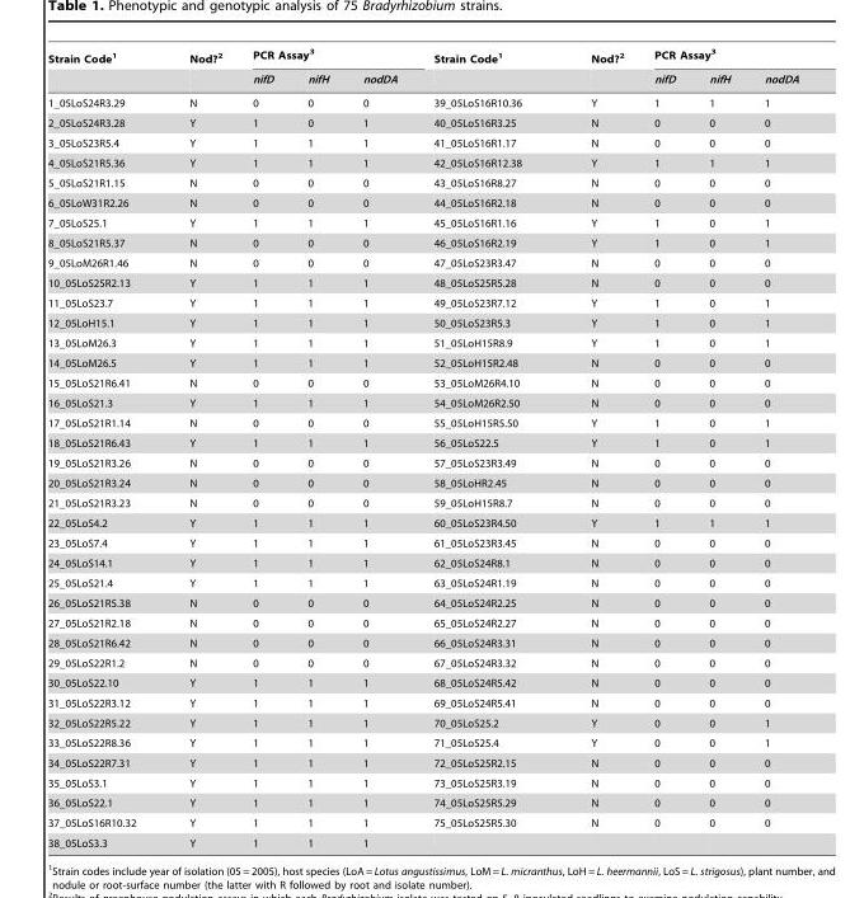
<table><thead><tr><td rowspan="2">Strain Code<sup>1</sup></td><td rowspan="2">Nod?<sup>2</sup></td><td colspan="3">PCR Assay<sup>3</sup></td><td rowspan="2">Strain Code<sup>1</sup></td><td rowspan="2">Nod?<sup>2</sup></td><td colspan="3">PCR Assay<sup>3</sup></td></tr><tr><td>nifD</td><td>nifH</td><td>nodDA</td><td>nifD</td><td>nifH</td><td>nodDA</td></tr></thead><tbody><tr><td>1_05LoS24R3.29</td><td>N</td><td>0</td><td>0</td><td>0</td><td>39_05LoS16R10.36</td><td>Y</td><td>1</td><td>1</td><td>1</td></tr><tr><td>2_05LoS24R3.28</td><td>Y</td><td>1</td><td>0</td><td>1</td><td>40_05LoS16R3.25</td><td>N</td><td>0</td><td>0</td><td>0</td></tr><tr><td>3_05LoS23R5.4</td><td>Y</td><td>1</td><td>1</td><td>1</td><td>41_05LoS16R1.17</td><td>N</td><td>0</td><td>0</td><td>0</td></tr><tr><td>4_05LoS21R5.36</td><td>Y</td><td>1</td><td>1</td><td>1</td><td>42_05LoS16R12.38</td><td>Y</td><td>1</td><td>1</td><td>1</td></tr><tr><td>5_05LoS21R1.15</td><td>N</td><td>0</td><td>0</td><td>0</td><td>43_05LoS16R8.27</td><td>N</td><td>0</td><td>0</td><td>0</td></tr><tr><td>6_05LoW31R2.26</td><td>N</td><td>0</td><td>0</td><td>0</td><td>44_05LoS16R2.18</td><td>N</td><td>0</td><td>0</td><td>0</td></tr><tr><td>7_05LoS25.1</td><td>Y</td><td>1</td><td>1</td><td>1</td><td>45_05LoS16R1.16</td><td>Y</td><td>1</td><td>0</td><td>1</td></tr><tr><td>8_05LoS21R5.37</td><td>N</td><td>0</td><td>0</td><td>0</td><td>46_05LoS16R2.19</td><td>Y</td><td>1</td><td>0</td><td>1</td></tr><tr><td>9_05LoM26R1.46</td><td>N</td><td>0</td><td>0</td><td>0</td><td>47_05LoS23R3.47</td><td>N</td><td>0</td><td>0</td><td>0</td></tr><tr><td>10_05LoS25R2.13</td><td>Y</td><td>1</td><td>1</td><td>1</td><td>48_05LoS25R5.28</td><td>N</td><td>0</td><td>0</td><td>0</td></tr><tr><td>11_05LoS23.7</td><td>Y</td><td>1</td><td>1</td><td>1</td><td>49_05LoS23R7.12</td><td>Y</td><td>1</td><td>0</td><td>1</td></tr><tr><td>12_05LoH15.1</td><td>Y</td><td>1</td><td>1</td><td>1</td><td>50_05LoS23R5.3</td><td>Y</td><td>1</td><td>0</td><td>1</td></tr><tr><td>13_05LoM26.3</td><td>Y</td><td>1</td><td>1</td><td>1</td><td>51_05LoH15R8.9</td><td>Y</td><td>1</td><td>0</td><td>1</td></tr><tr><td>14_05LoM26.5</td><td>Y</td><td>1</td><td>1</td><td>1</td><td>52_05LoH15R2.48</td><td>N</td><td>0</td><td>0</td><td>0</td></tr><tr><td>15_05LoS21R6.41</td><td>N</td><td>0</td><td>0</td><td>0</td><td>53_05LoM26R4.10</td><td>N</td><td>0</td><td>0</td><td>0</td></tr><tr><td>16_05LoS21.3</td><td>Y</td><td>1</td><td>1</td><td>1</td><td>54_05LoM26R2.50</td><td>N</td><td>0</td><td>0</td><td>0</td></tr><tr><td>17_05LoS21R1.14</td><td>N</td><td>0</td><td>0</td><td>0</td><td>55_05LoH15R5.50</td><td>Y</td><td>1</td><td>0</td><td>1</td></tr><tr><td>18_05LoS21R6.43</td><td>Y</td><td>1</td><td>1</td><td>1</td><td>56_05LoS22.5</td><td>Y</td><td>1</td><td>0</td><td>1</td></tr><tr><td>19_05LoS21R3.26</td><td>N</td><td>0</td><td>0</td><td>0</td><td>57_05LoS23R3.49</td><td>N</td><td>0</td><td>0</td><td>0</td></tr><tr><td>20_05LoS21R3.24</td><td>N</td><td>0</td><td>0</td><td>0</td><td>58_05LoHR2.45</td><td>N</td><td>0</td><td>0</td><td>0</td></tr><tr><td>21_05LoS21R3.23</td><td>N</td><td>0</td><td>0</td><td>0</td><td>59_05LoH15R8.7</td><td>N</td><td>0</td><td>0</td><td>0</td></tr><tr><td>22_05LoS4.2</td><td>Y</td><td>1</td><td>1</td><td>1</td><td>60_05LoS23R4.50</td><td>Y</td><td>1</td><td>1</td><td>1</td></tr><tr><td>23_05LoS7.4</td><td>Y</td><td>1</td><td>1</td><td>1</td><td>61_05LoS23R3.45</td><td>N</td><td>0</td><td>0</td><td>0</td></tr><tr><td>24_05LoS14.1</td><td>Y</td><td>1</td><td>1</td><td>1</td><td>62_05LoS24R8.1</td><td>N</td><td>0</td><td>0</td><td>0</td></tr><tr><td>25_05LoS21.4</td><td>Y</td><td>1</td><td>1</td><td>1</td><td>63_05LoS24R1.19</td><td>N</td><td>0</td><td>0</td><td>0</td></tr><tr><td>26_05LoS21R5.38</td><td>N</td><td>0</td><td>0</td><td>0</td><td>64_05LoS24R2.25</td><td>N</td><td>0</td><td>0</td><td>0</td></tr><tr><td>27_05LoS21R2.18</td><td>N</td><td>0</td><td>0</td><td>0</td><td>65_05LoS24R2.27</td><td>N</td><td>0</td><td>0</td><td>0</td></tr><tr><td>28_05LoS21R6.42</td><td>N</td><td>0</td><td>0</td><td>0</td><td>66_05LoS24R3.31</td><td>N</td><td>0</td><td>0</td><td>0</td></tr><tr><td>29_05LoS22R1.2</td><td>N</td><td>0</td><td>0</td><td>0</td><td>67_05LoS24R3.32</td><td>N</td><td>0</td><td>0</td><td>0</td></tr><tr><td>30_05LoS22.10</td><td>Y</td><td>1</td><td>1</td><td>1</td><td>68_05LoS24R5.42</td><td>N</td><td>0</td><td>0</td><td>0</td></tr><tr><td>31_05LoS22R3.12</td><td>Y</td><td>1</td><td>1</td><td>1</td><td>69_05LoS24R5.41</td><td>N</td><td>0</td><td>0</td><td>0</td></tr><tr><td>32_05LoS22R5.22</td><td>Y</td><td>1</td><td>1</td><td>1</td><td>70_05LoS25.2</td><td>Y</td><td>0</td><td>0</td><td>1</td></tr><tr><td>33_05LoS22R8.36</td><td>Y</td><td>1</td><td>1</td><td>1</td><td>71_05LoS25.4</td><td>Y</td><td>0</td><td>0</td><td>1</td></tr><tr><td>34_05LoS22R7.31</td><td>Y</td><td>1</td><td>1</td><td>1</td><td>72_05LoS25R2.15</td><td>N</td><td>0</td><td>0</td><td>0</td></tr><tr><td>35_05LoS3.1</td><td>Y</td><td>1</td><td>1</td><td>1</td><td>73_05LoS25R3.19</td><td>N</td><td>0</td><td>0</td><td>0</td></tr><tr><td>36_05LoS22.1</td><td>Y</td><td>1</td><td>1</td><td>1</td><td>74_05LoS25R5.29</td><td>N</td><td>0</td><td>0</td><td>0</td></tr><tr><td>37_05LoS16R10.32</td><td>Y</td><td>1</td><td>1</td><td>1</td><td>75_05LoS25R5.30</td><td>N</td><td>0</td><td>0</td><td>0</td></tr><tr><td>38_05LoS3.3</td><td>Y</td><td>1</td><td>1</td><td>1</td><td></td><td></td><td></td><td></td><td></td></tr></tbody></table>